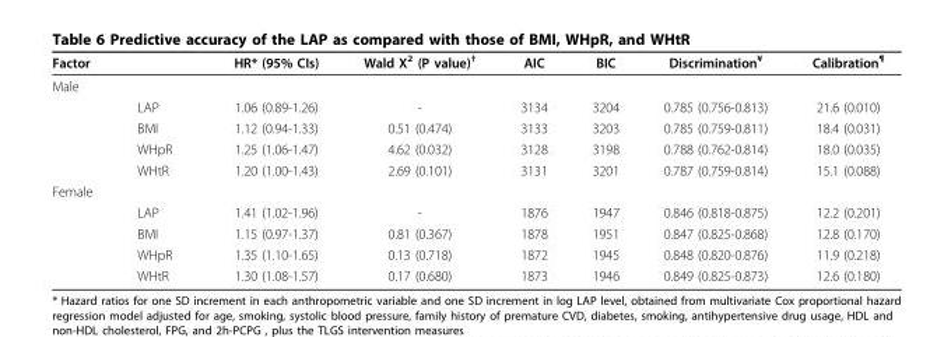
<table><thead><tr><td>Factor</td><td></td><td>HR* (95% CIs)</td><td>Wald Χ<sup>2</sup> (P value)<sup>†</sup></td><td>AIC</td><td>BIC</td><td>Discrimination<sup>¥</sup></td><td>Calibration<sup>¶</sup></td></tr></thead><tbody><tr><td colspan="8">Male</td></tr><tr><td></td><td>LAP</td><td>1.06 (0.89-1.26)</td><td>-</td><td>3134</td><td>3204</td><td>0.785 (0.756-0.813)</td><td>21.6 (0.010)</td></tr><tr><td></td><td>BMI</td><td>1.12 (0.94-1.33)</td><td>0.51 (0.474)</td><td>3133</td><td>3203</td><td>0.785 (0.759-0.811)</td><td>18.4 (0.031)</td></tr><tr><td></td><td>WHpR</td><td>1.25 (1.06-1.47)</td><td>4.62 (0.032)</td><td>3128</td><td>3198</td><td>0.788 (0.762-0.814)</td><td>18.0 (0.035)</td></tr><tr><td></td><td>WHtR</td><td>1.20 (1.00-1.43)</td><td>2.69 (0.101)</td><td>3131</td><td>3201</td><td>0.787 (0.759-0.814)</td><td>15.1 (0.088)</td></tr><tr><td colspan="8">Female</td></tr><tr><td></td><td>LAP</td><td>1.41 (1.02-1.96)</td><td>-</td><td>1876</td><td>1947</td><td>0.846 (0.818-0.875)</td><td>12.2 (0.201)</td></tr><tr><td></td><td>BMI</td><td>1.15 (0.97-1.37)</td><td>0.81 (0.367)</td><td>1878</td><td>1951</td><td>0.847 (0.825-0.868)</td><td>12.8 (0.170)</td></tr><tr><td></td><td>WHpR</td><td>1.35 (1.10-1.65)</td><td>0.13 (0.718)</td><td>1872</td><td>1945</td><td>0.848 (0.820-0.876)</td><td>11.9 (0.218)</td></tr><tr><td></td><td>WHtR</td><td>1.30 (1.08-1.57)</td><td>0.17 (0.680)</td><td>1873</td><td>1946</td><td>0.849 (0.825-0.873)</td><td>12.6 (0.180)</td></tr></tbody></table>